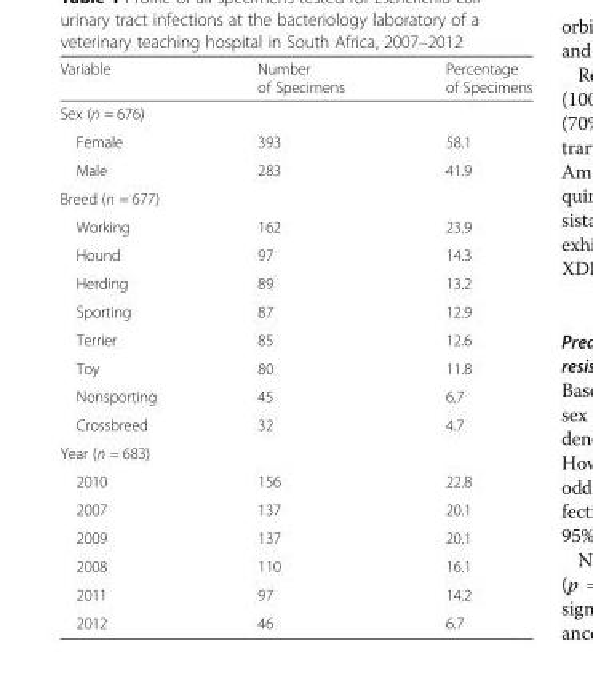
<table><thead><tr><td>Variable</td><td>Number of Specimens</td><td>Percentage of Specimens</td></tr></thead><tbody><tr><td colspan="3">Sex (n = 676)</td></tr><tr><td>Female</td><td>393</td><td>58.1</td></tr><tr><td>Male</td><td>283</td><td>41.9</td></tr><tr><td colspan="3">Breed (n = 677)</td></tr><tr><td>Working</td><td>162</td><td>23.9</td></tr><tr><td>Hound</td><td>97</td><td>14.3</td></tr><tr><td>Herding</td><td>89</td><td>13.2</td></tr><tr><td>Sporting</td><td>87</td><td>12.9</td></tr><tr><td>Terrier</td><td>85</td><td>12.6</td></tr><tr><td>Toy</td><td>80</td><td>11.8</td></tr><tr><td>Nonsporting</td><td>45</td><td>6.7</td></tr><tr><td>Crossbreed</td><td>32</td><td>4.7</td></tr><tr><td colspan="3">Year (n = 683)</td></tr><tr><td>2010</td><td>156</td><td>22.8</td></tr><tr><td>2007</td><td>137</td><td>20.1</td></tr><tr><td>2009</td><td>137</td><td>20.1</td></tr><tr><td>2008</td><td>110</td><td>16.1</td></tr><tr><td>2011</td><td>97</td><td>14.2</td></tr><tr><td>2012</td><td>46</td><td>6.7</td></tr></tbody></table>